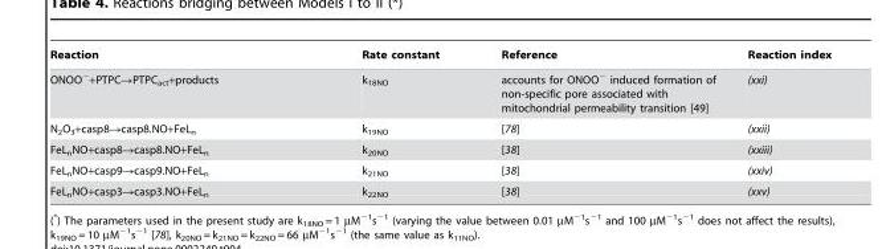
<table><thead><tr><td>Reaction</td><td>Rate constant</td><td>Reference</td><td>Reaction index</td></tr></thead><tbody><tr><td>ONOO<sup>−</sup>+PTPC→PTPC<sub>act</sub>+products</td><td>k<sub>18NO</sub></td><td>accounts for ONOO<sup>−</sup> induced formation of non-specific pore associated with mitochondrial permeability transition [49]</td><td>(xxi)</td></tr><tr><td>N<sub>2</sub>O<sub>3</sub>+casp8→casp8.NO+FeL<sub>n</sub></td><td>k<sub>19NO</sub></td><td>[78]</td><td>(xxii)</td></tr><tr><td>FeL<sub>n</sub>NO+casp8→casp8.NO+FeL<sub>n</sub></td><td>k<sub>20NO</sub></td><td>[38]</td><td>(xxiii)</td></tr><tr><td>FeL<sub>n</sub>NO+casp9→casp9.NO+FeL<sub>n</sub></td><td>k<sub>21NO</sub></td><td>[38]</td><td>(xxiv)</td></tr><tr><td>FeL<sub>n</sub>NO+casp3→casp3.NO+FeL<sub>n</sub></td><td>k<sub>22NO</sub></td><td>[38]</td><td>(xxv)</td></tr></tbody></table>